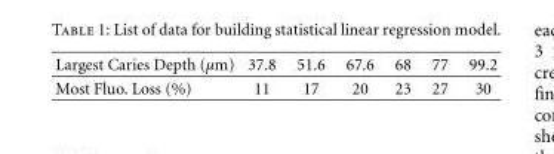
<table><thead><tr><td>Largest Caries Depth (μm)</td><td>37.8</td><td>51.6</td><td>67.6</td><td>68</td><td>77</td><td>99.2</td></tr></thead><tbody><tr><td>Most Fluo. Loss (%)</td><td>11</td><td>17</td><td>20</td><td>23</td><td>27</td><td>30</td></tr></tbody></table>